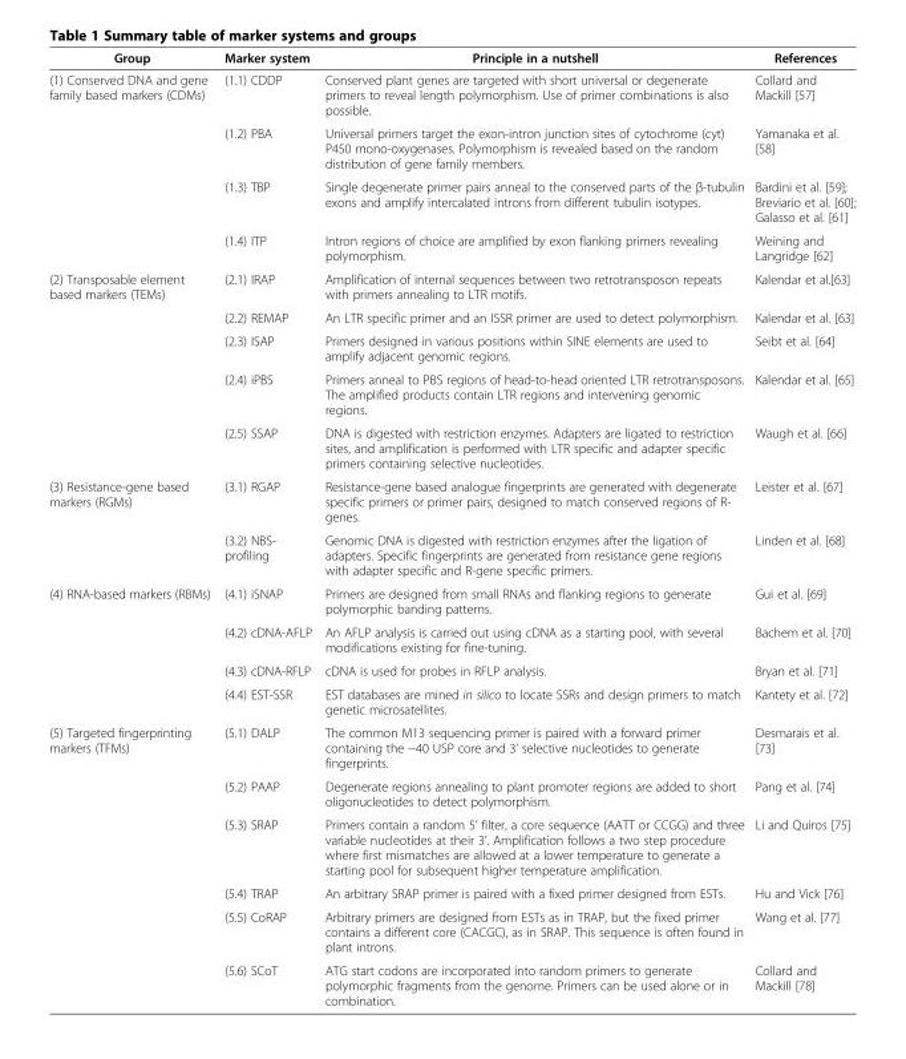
<table><thead><tr><td>Group</td><td>Marker system</td><td>Principle in a nutshell</td><td>References</td></tr></thead><tbody><tr><td rowspan="4">(1) Conserved DNA and gene family based markers (CDMs)</td><td>(1.1) CDDP</td><td>Conserved plant genes are targeted with short universal or degenerate primers to reveal length polymorphism. Use of primer combinations is also possible.</td><td>Collard and Mackill [57]</td></tr><tr><td>(1.2) PBA</td><td>Universal primers target the exon-intron junction sites of cytochrome (cyt) P450 mono-oxygenases. Polymorphism is revealed based on the random distribution of gene family members.</td><td>Yamanaka et al. [58]</td></tr><tr><td>(1.3) TBP</td><td>Single degenerate primer pairs anneal to the conserved parts of the β-tubulin exons and amplify intercalated introns from different tubulin isotypes.</td><td>Bardini et al. [59]; Breviario et al. [60]; Galasso et al. [61]</td></tr><tr><td>(1.4) ITP</td><td>Intron regions of choice are amplified by exon flanking primers revealing polymorphism.</td><td>Weining and Langridge [62]</td></tr><tr><td rowspan="5">(2) Transposable element based markers (TEMs)</td><td>(2.1) IRAP</td><td>Amplification of internal sequences between two retrotransposon repeats with primers annealing to LTR motifs.</td><td>Kalendar et al.[63]</td></tr><tr><td>(2.2) REMAP</td><td>An LTR specific primer and an ISSR primer are used to detect polymorphism.</td><td>Kalendar et al. [63]</td></tr><tr><td>(2.3) ISAP</td><td>Primers designed in various positions within SINE elements are used to amplify adjacent genomic regions.</td><td>Seibt et al. [64]</td></tr><tr><td>(2.4) iPBS</td><td>Primers anneal to PBS regions of head-to-head oriented LTR retrotransposons. The amplified products contain LTR regions and intervening genomic regions.</td><td>Kalendar et al. [65]</td></tr><tr><td>(2.5) SSAP</td><td>DNA is digested with restriction enzymes. Adapters are ligated to restriction sites, and amplification is performed with LTR specific and adapter specific primers containing selective nucleotides.</td><td>Waugh et al. [66]</td></tr><tr><td rowspan="2">(3) Resistance-gene based markers (RGMs)</td><td>(3.1) RGAP</td><td>Resistance-gene based analogue fingerprints are generated with degenerate specific primers or primer pairs, designed to match conserved regions of R- genes.</td><td>Leister et al. [67]</td></tr><tr><td>(3.2) NBS- profiling</td><td>Genomic DNA is digested with restriction enzymes after the ligation of adapters. Specific fingerprints are generated from resistance gene regions with adapter specific and R-gene specific primers.</td><td>Linden et al. [68]</td></tr><tr><td rowspan="4">(4) RNA-based markers (RBMs)</td><td>(4.1) iSNAP</td><td>Primers are designed from small RNAs and flanking regions to generate polymorphic banding patterns.</td><td>Gui et al. [69]</td></tr><tr><td>(4.2) cDNA-AFLP</td><td>An AFLP analysis is carried out using cDNA as a starting pool, with several modifications existing for fine-tuning.</td><td>Bachem et al. [70]</td></tr><tr><td>(4.3) cDNA-RFLP</td><td>cDNA is used for probes in RFLP analysis.</td><td>Bryan et al. [71]</td></tr><tr><td>(4.4) EST-SSR</td><td>EST databases are mined in silico to locate SSRs and design primers to match genetic microsatellites.</td><td>Kantety et al. [72]</td></tr><tr><td rowspan="6">(5) Targeted fingerprinting markers (TFMs)</td><td>(5.1) DALP</td><td>The common M13 sequencing primer is paired with a forward primer containing the −40 USP core and 3’ selective nucleotides to generate fingerprints.</td><td>Desmarais et al. [73]</td></tr><tr><td>(5.2) PAAP</td><td>Degenerate regions annealing to plant promoter regions are added to short oligonucleotides to detect polymorphism.</td><td>Pang et al. [74]</td></tr><tr><td>(5.3) SRAP</td><td>Primers contain a random 5’ filter, a core sequence (AATT or CCGG) and three variable nucleotides at their 3’. Amplification follows a two step procedure where first mismatches are allowed at a lower temperature to generate a starting pool for subsequent higher temperature amplification.</td><td>Li and Quiros [75]</td></tr><tr><td>(5.4) TRAP</td><td>An arbitrary SRAP primer is paired with a fixed primer designed from ESTs.</td><td>Hu and Vick [76]</td></tr><tr><td>(5.5) CoRAP</td><td>Arbitrary primers are designed from ESTs as in TRAP, but the fixed primer contains a different core (CACGC), as in SRAP. This sequence is often found in plant introns.</td><td>Wang et al. [77]</td></tr><tr><td>(5.6) SCoT</td><td>ATG start codons are incorporated into random primers to generate polymorphic fragments from the genome. Primers can be used alone or in combination.</td><td>Collard and Mackill [78]</td></tr></tbody></table>